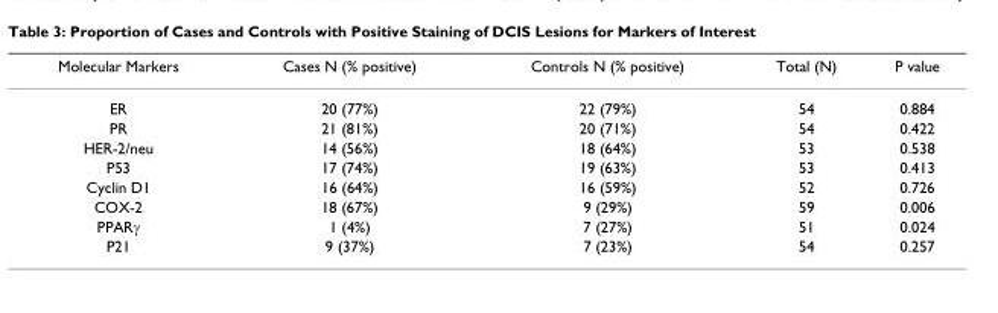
<table><thead><tr><td>Molecular Markers</td><td>Cases N (% positive)</td><td>Controls N (% positive)</td><td>Total (N)</td><td>P value</td></tr></thead><tbody><tr><td>ER</td><td>20 (77%)</td><td>22 (79%)</td><td>54</td><td>0.884</td></tr><tr><td>PR</td><td>21 (81%)</td><td>20 (71%)</td><td>54</td><td>0.422</td></tr><tr><td>HER-2/neu</td><td>14 (56%)</td><td>18 (64%)</td><td>53</td><td>0.538</td></tr><tr><td>P53</td><td>17 (74%)</td><td>19 (63%)</td><td>53</td><td>0.413</td></tr><tr><td>Cyclin D1</td><td>16 (64%)</td><td>16 (59%)</td><td>52</td><td>0.726</td></tr><tr><td>COX-2</td><td>18 (67%)</td><td>9 (29%)</td><td>59</td><td>0.006</td></tr><tr><td>PPARγ</td><td>1 (4%)</td><td>7 (27%)</td><td>51</td><td>0.024</td></tr><tr><td>P21</td><td>9 (37%)</td><td>7 (23%)</td><td>54</td><td>0.257</td></tr></tbody></table>